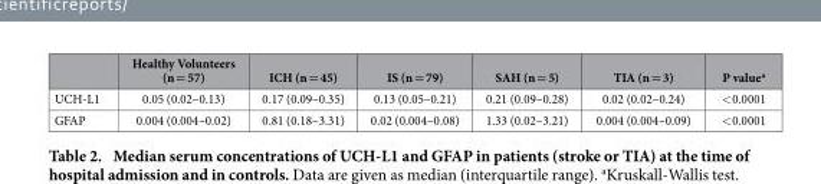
<table><thead><tr><td></td><td>Healthy Volunteers (n = 57)</td><td>ICH (n = 45)</td><td>IS (n = 79)</td><td>SAH (n = 5)</td><td>TIA (n = 3)</td><td>P value<sup>a</sup></td></tr></thead><tbody><tr><td>UCH-L1</td><td>0.05 (0.02–0.13)</td><td>0.17 (0.09–0.35)</td><td>0.13 (0.05–0.21)</td><td>0.21 (0.09–0.28)</td><td>0.02 (0.02–0.24)</td><td>&lt; 0.0001</td></tr><tr><td>GFAP</td><td>0.004 (0.004–0.02)</td><td>0.81 (0.18–3.31)</td><td>0.02 (0.004–0.08)</td><td>1.33 (0.02–3.21)</td><td>0.004 (0.004–0.09)</td><td>&lt; 0.0001</td></tr></tbody></table>